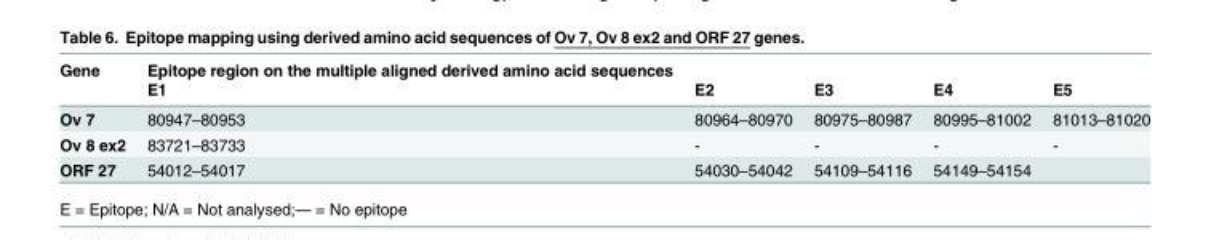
<table><thead><tr><td rowspan="2">Gene</td><td rowspan="2">Epitope region on the multiple aligned derived amino acid sequences E1</td><td rowspan="2">E2</td><td rowspan="2">E3</td><td rowspan="2">E4</td><td rowspan="2">E5</td></tr><tr></tr></thead><tbody><tr><td>Ov 7</td><td>80947–80953</td><td>80964–80970</td><td>80975–80987</td><td>80995–81002</td><td>81013–81020</td></tr><tr><td>Ov 8 ex2</td><td>83721–83733</td><td>-</td><td>-</td><td>-</td><td>-</td></tr><tr><td>ORF 27</td><td>54012–54017</td><td>54030–54042</td><td>54109–54116</td><td>54149–54154</td><td></td></tr></tbody></table>